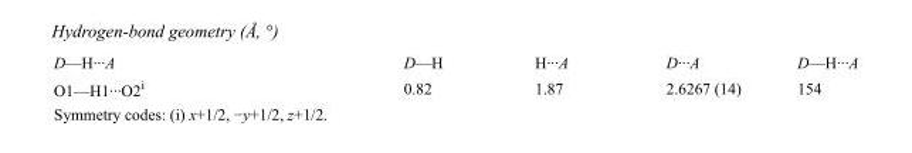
<table><tbody><tr><td>D—H···A</td><td>D—H</td><td>H···A</td><td>D···A</td><td>D—H···A</td></tr><tr><td>O1—H1···O2<sup>i</sup></td><td>0.82</td><td>1.87</td><td>2.6267 (14)</td><td>154</td></tr></tbody></table>